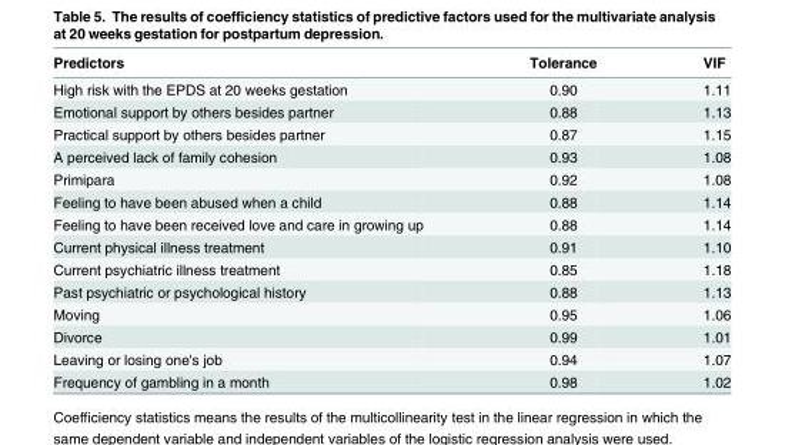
<table><thead><tr><td>Predictors</td><td>Tolerance</td><td>VIF</td></tr></thead><tbody><tr><td>High risk with the EPDS at 20 weeks gestation</td><td>0.90</td><td>1.11</td></tr><tr><td>Emotional support by others besides partner</td><td>0.88</td><td>1.13</td></tr><tr><td>Practical support by others besides partner</td><td>0.87</td><td>1.15</td></tr><tr><td>A perceived lack of family cohesion</td><td>0.93</td><td>1.08</td></tr><tr><td>Primipara</td><td>0.92</td><td>1.08</td></tr><tr><td>Feeling to have been abused when a child</td><td>0.88</td><td>1.14</td></tr><tr><td>Feeling to have been received love and care in growing up</td><td>0.88</td><td>1.14</td></tr><tr><td>Current physical illness treatment</td><td>0.91</td><td>1.10</td></tr><tr><td>Current psychiatric illness treatment</td><td>0.85</td><td>1.18</td></tr><tr><td>Past psychiatric or psychological history</td><td>0.88</td><td>1.13</td></tr><tr><td>Moving</td><td>0.95</td><td>1.06</td></tr><tr><td>Divorce</td><td>0.99</td><td>1.01</td></tr><tr><td>Leaving or losing one&#x27;s job</td><td>0.94</td><td>1.07</td></tr><tr><td>Frequency of gambling in a month</td><td>0.98</td><td>1.02</td></tr></tbody></table>